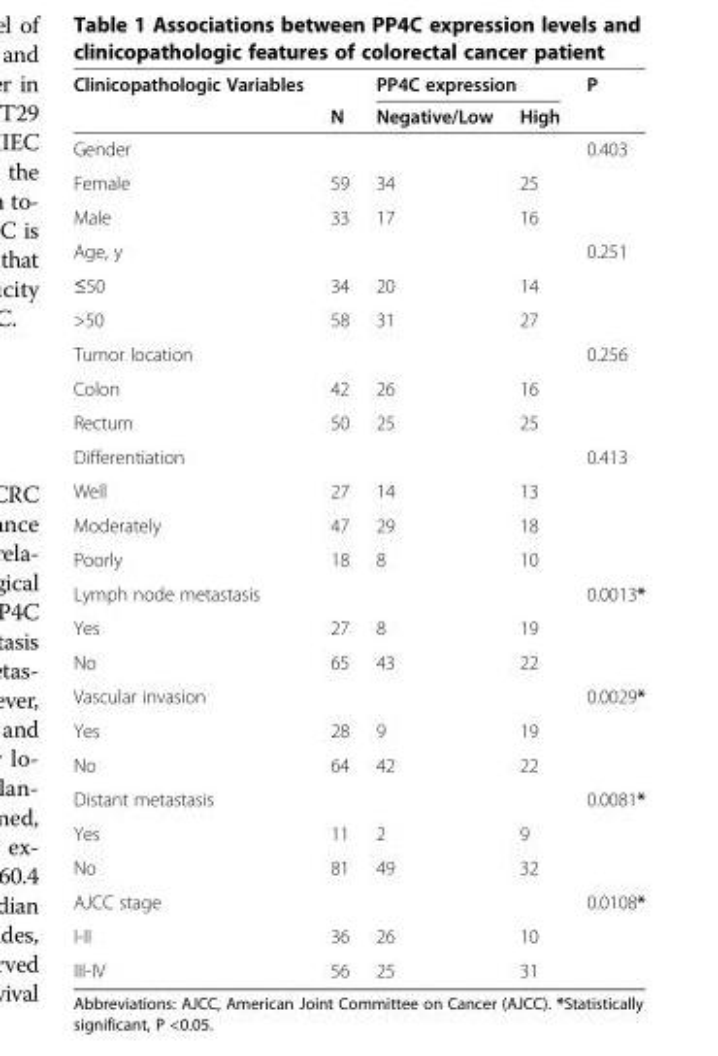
<table><thead><tr><td rowspan="2">Clinicopathologic Variables</td><td rowspan="2">N</td><td colspan="2">PP4C expression</td><td rowspan="2">P</td></tr><tr><td>Negative/Low</td><td>High</td></tr></thead><tbody><tr><td>Gender</td><td></td><td></td><td></td><td>0.403</td></tr><tr><td>Female</td><td>59</td><td>34</td><td>25</td><td></td></tr><tr><td>Male</td><td>33</td><td>17</td><td>16</td><td></td></tr><tr><td>Age, y</td><td></td><td></td><td></td><td>0.251</td></tr><tr><td>≤50</td><td>34</td><td>20</td><td>14</td><td></td></tr><tr><td>&gt;50</td><td>58</td><td>31</td><td>27</td><td></td></tr><tr><td>Tumor location</td><td></td><td></td><td></td><td>0.256</td></tr><tr><td>Colon</td><td>42</td><td>26</td><td>16</td><td></td></tr><tr><td>Rectum</td><td>50</td><td>25</td><td>25</td><td></td></tr><tr><td>Differentiation</td><td></td><td></td><td></td><td>0.413</td></tr><tr><td>Well</td><td>27</td><td>14</td><td>13</td><td></td></tr><tr><td>Moderately</td><td>47</td><td>29</td><td>18</td><td></td></tr><tr><td>Poorly</td><td>18</td><td>8</td><td>10</td><td></td></tr><tr><td>Lymph node metastasis</td><td></td><td></td><td></td><td>0.0013*</td></tr><tr><td>Yes</td><td>27</td><td>8</td><td>19</td><td></td></tr><tr><td>No</td><td>65</td><td>43</td><td>22</td><td></td></tr><tr><td>Vascular invasion</td><td></td><td></td><td></td><td>0.0029*</td></tr><tr><td>Yes</td><td>28</td><td>9</td><td>19</td><td></td></tr><tr><td>No</td><td>64</td><td>42</td><td>22</td><td></td></tr><tr><td>Distant metastasis</td><td></td><td></td><td></td><td>0.0081*</td></tr><tr><td>Yes</td><td>11</td><td>2</td><td>9</td><td></td></tr><tr><td>No</td><td>81</td><td>49</td><td>32</td><td></td></tr><tr><td>AJCC stage</td><td></td><td></td><td></td><td>0.0108*</td></tr><tr><td>I-II</td><td>36</td><td>26</td><td>10</td><td></td></tr><tr><td>III-IV</td><td>56</td><td>25</td><td>31</td><td></td></tr></tbody></table>